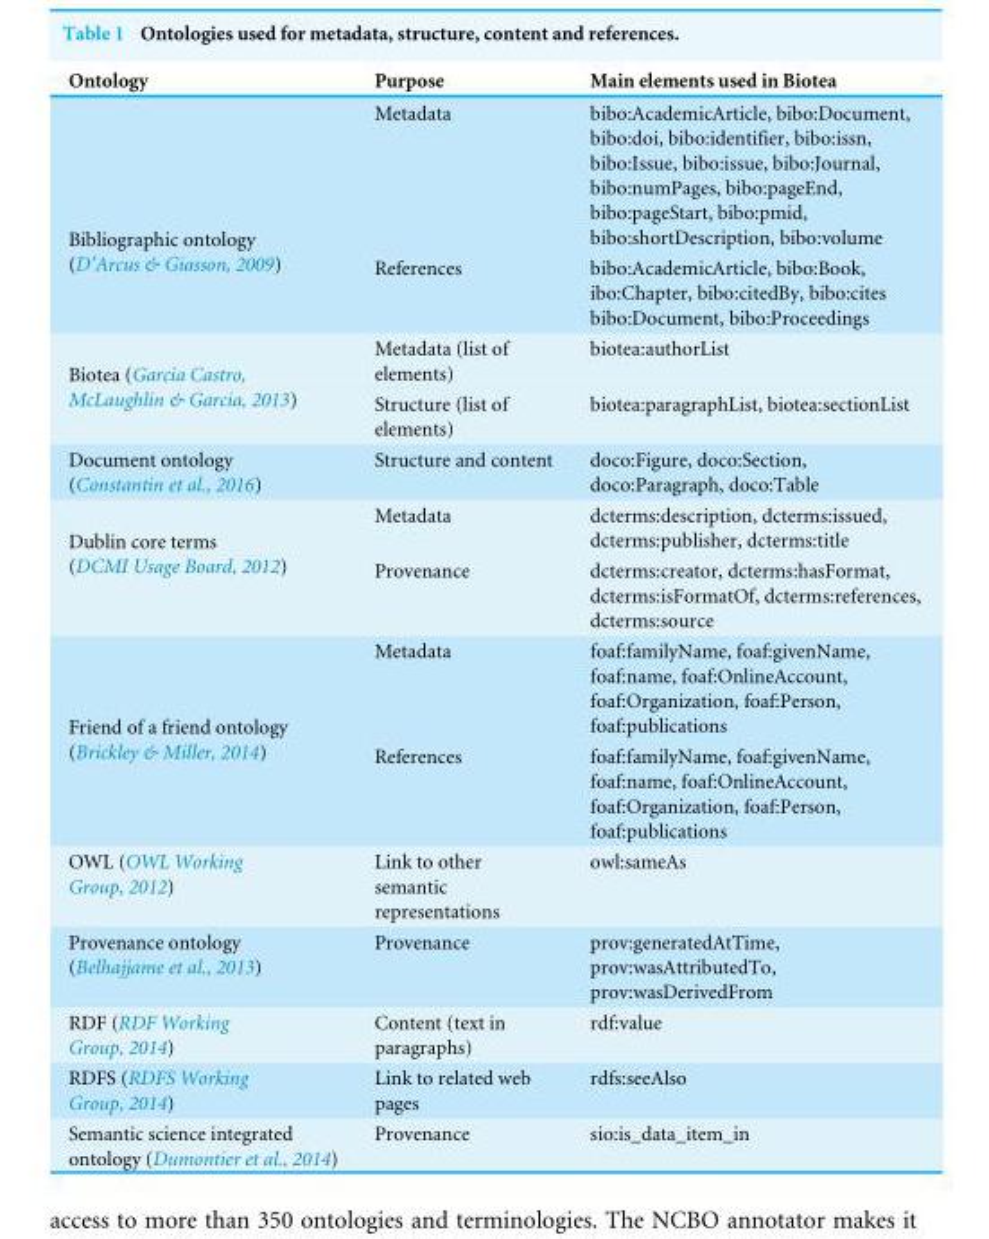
<table><thead><tr><td>Ontology</td><td>Purpose</td><td>Main elements used in Biotea</td></tr></thead><tbody><tr><td rowspan="2">Bibliographic ontology (D’Arcus &amp; Giasson, 2009)</td><td>Metadata</td><td>bibo:AcademicArticle, bibo:Document, bibo:doi, bibo:identifier, bibo:issn, bibo:Issue, bibo:issue, bibo:Journal, bibo:numPages, bibo:pageEnd, bibo:pageStart, bibo:pmid, bibo:shortDescription, bibo:volume</td></tr><tr><td>References</td><td>bibo:AcademicArticle, bibo:Book, ibo:Chapter, bibo:citedBy, bibo:cites bibo:Document, bibo:Proceedings</td></tr><tr><td rowspan="2">Biotea (Garcia Castro, McLaughlin &amp; Garcia, 2013)</td><td>Metadata (list of elements)</td><td>biotea:authorList</td></tr><tr><td>Structure (list of elements)</td><td>biotea:paragraphList, biotea:sectionList</td></tr><tr><td>Document ontology (Constantin et al., 2016)</td><td>Structure and content</td><td>doco:Figure, doco:Section, doco:Paragraph, doco:Table</td></tr><tr><td rowspan="2">Dublin core terms (DCMI Usage Board, 2012)</td><td>Metadata</td><td>dcterms:description, dcterms:issued, dcterms:publisher, dcterms:title</td></tr><tr><td>Provenance</td><td>dcterms:creator, dcterms:hasFormat, dcterms:isFormatOf, dcterms:references, dcterms:source</td></tr><tr><td rowspan="2">Friend of a friend ontology (Brickley &amp; Miller, 2014)</td><td>Metadata</td><td>foaf:familyName, foaf:givenName, foaf:name, foaf:OnlineAccount, foaf:Organization, foaf:Person, foaf:publications</td></tr><tr><td>References</td><td>foaf:familyName, foaf:givenName, foaf:name, foaf:OnlineAccount, foaf:Organization, foaf:Person, foaf:publications</td></tr><tr><td>OWL (OWL Working Group, 2012)</td><td>Link to other semantic representations</td><td>owl:sameAs</td></tr><tr><td>Provenance ontology (Belhajjame et al., 2013)</td><td>Provenance</td><td>prov:generatedAtTime, prov:wasAttributedTo, prov:wasDerivedFrom</td></tr><tr><td>RDF (RDF Working Group, 2014)</td><td>Content (text in paragraphs)</td><td>rdf:value</td></tr><tr><td>RDFS (RDFS Working Group, 2014)</td><td>Link to related web pages</td><td>rdfs:seeAlso</td></tr><tr><td>Semantic science integrated ontology (Dumontier et al., 2014)</td><td>Provenance</td><td>sio:is_data_item_in</td></tr></tbody></table>